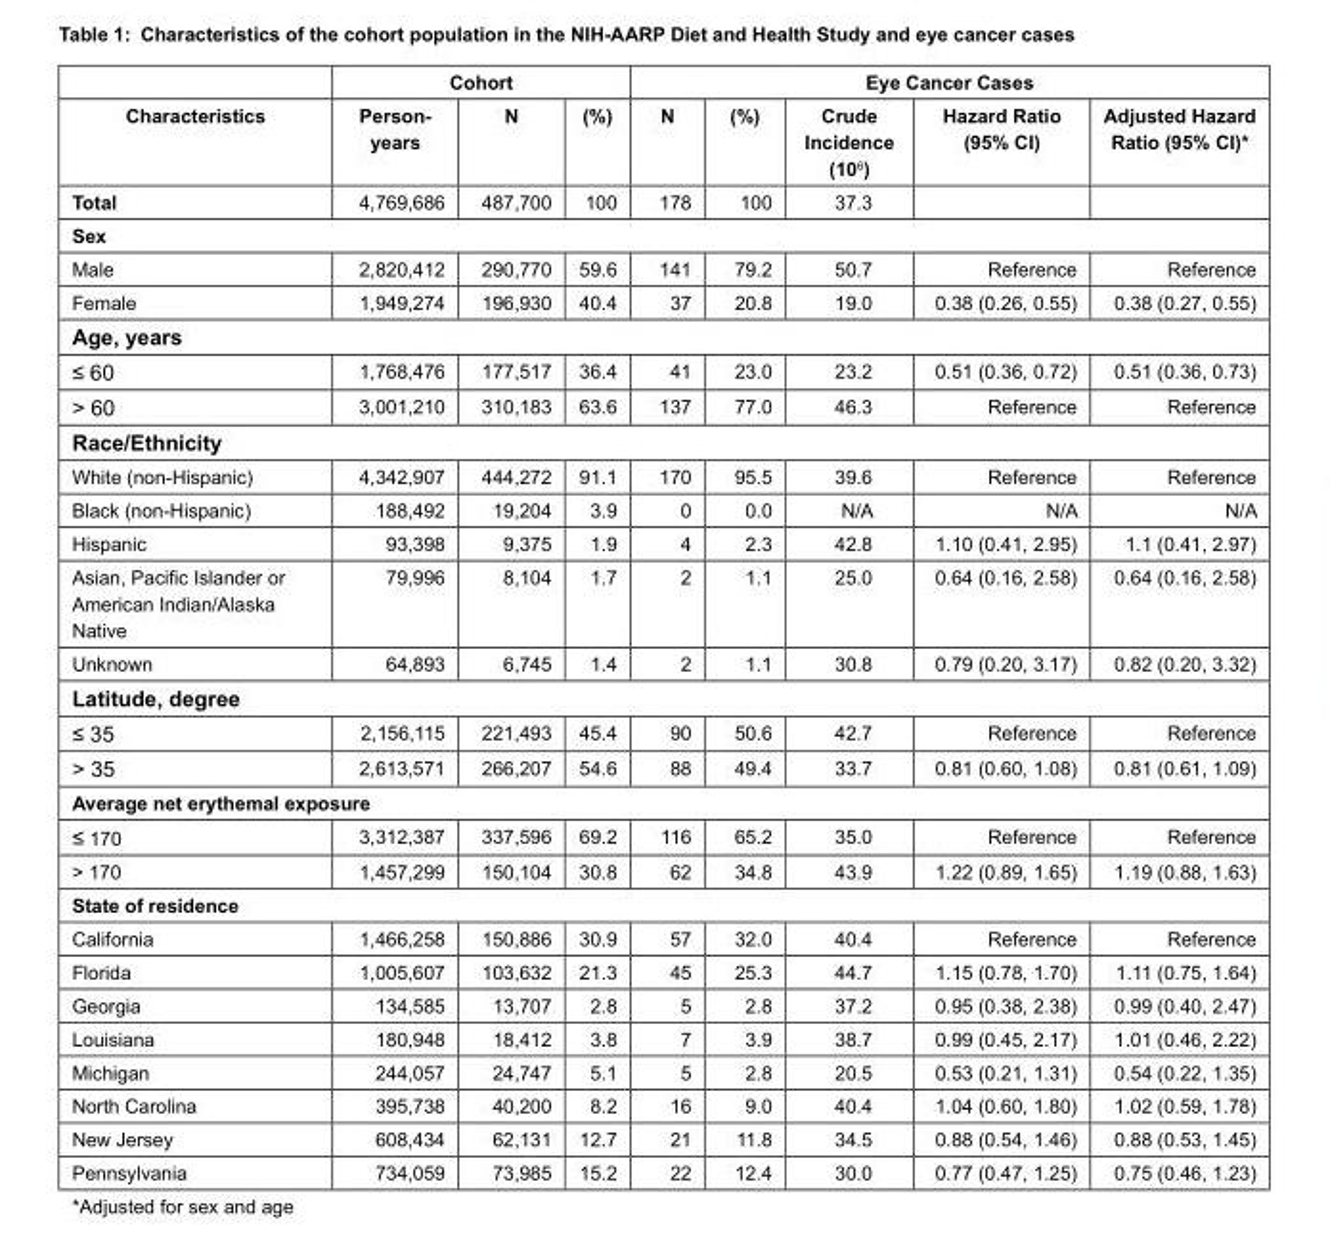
<table><thead><tr><td rowspan="2">Characteristics</td><td colspan="3">Cohort</td><td colspan="5">Eye Cancer Cases</td></tr><tr><td>Person- years</td><td>N</td><td>(%)</td><td>N</td><td>(%)</td><td>Crude Incidence (10<sup>6</sup>)</td><td>Hazard Ratio (95% CI)</td><td>Adjusted Hazard Ratio (95% CI)*</td></tr></thead><tbody><tr><td>Total</td><td>4,769,686</td><td>487,700</td><td>100</td><td>178</td><td>100</td><td>37.3</td><td></td><td></td></tr><tr><td colspan="9">Sex</td></tr><tr><td>Male</td><td>2,820,412</td><td>290,770</td><td>59.6</td><td>141</td><td>79.2</td><td>50.7</td><td>Reference</td><td>Reference</td></tr><tr><td>Female</td><td>1,949,274</td><td>196,930</td><td>40.4</td><td>37</td><td>20.8</td><td>19.0</td><td>0.38 (0.26, 0.55)</td><td>0.38 (0.27, 0.55)</td></tr><tr><td colspan="9">Age, years</td></tr><tr><td>≤ 60</td><td>1,768,476</td><td>177,517</td><td>36.4</td><td>41</td><td>23.0</td><td>23.2</td><td>0.51 (0.36, 0.72)</td><td>0.51 (0.36, 0.73)</td></tr><tr><td>&gt; 60</td><td>3,001,210</td><td>310,183</td><td>63.6</td><td>137</td><td>77.0</td><td>46.3</td><td>Reference</td><td>Reference</td></tr><tr><td colspan="9">Race/Ethnicity</td></tr><tr><td>White (non-Hispanic)</td><td>4,342,907</td><td>444,272</td><td>91.1</td><td>170</td><td>95.5</td><td>39.6</td><td>Reference</td><td>Reference</td></tr><tr><td>Black (non-Hispanic)</td><td>188,492</td><td>19,204</td><td>3.9</td><td>0</td><td>0.0</td><td>N/A</td><td>N/A</td><td>N/A</td></tr><tr><td>Hispanic</td><td>93,398</td><td>9,375</td><td>1.9</td><td>4</td><td>2.3</td><td>42.8</td><td>1.10 (0.41, 2.95)</td><td>1.1 (0.41, 2.97)</td></tr><tr><td>Asian, Pacific Islander or American Indian/Alaska Native</td><td>79,996</td><td>8,104</td><td>1.7</td><td>2</td><td>1.1</td><td>25.0</td><td>0.64 (0.16, 2.58)</td><td>0.64 (0.16, 2.58)</td></tr><tr><td>Unknown</td><td>64,893</td><td>6,745</td><td>1.4</td><td>2</td><td>1.1</td><td>30.8</td><td>0.79 (0.20, 3.17)</td><td>0.82 (0.20, 3.32)</td></tr><tr><td colspan="9">Latitude, degree</td></tr><tr><td>≤ 35</td><td>2,156,115</td><td>221,493</td><td>45.4</td><td>90</td><td>50.6</td><td>42.7</td><td>Reference</td><td>Reference</td></tr><tr><td>&gt; 35</td><td>2,613,571</td><td>266,207</td><td>54.6</td><td>88</td><td>49.4</td><td>33.7</td><td>0.81 (0.60, 1.08)</td><td>0.81 (0.61, 1.09)</td></tr><tr><td colspan="9">Average net erythemal exposure</td></tr><tr><td>≤ 170</td><td>3,312,387</td><td>337,596</td><td>69.2</td><td>116</td><td>65.2</td><td>35.0</td><td>Reference</td><td>Reference</td></tr><tr><td>&gt; 170</td><td>1,457,299</td><td>150,104</td><td>30.8</td><td>62</td><td>34.8</td><td>43.9</td><td>1.22 (0.89, 1.65)</td><td>1.19 (0.88, 1.63)</td></tr><tr><td colspan="9">State of residence</td></tr><tr><td>California</td><td>1,466,258</td><td>150,886</td><td>30.9</td><td>57</td><td>32.0</td><td>40.4</td><td>Reference</td><td>Reference</td></tr><tr><td>Florida</td><td>1,005,607</td><td>103,632</td><td>21.3</td><td>45</td><td>25.3</td><td>44.7</td><td>1.15 (0.78, 1.70)</td><td>1.11 (0.75, 1.64)</td></tr><tr><td>Georgia</td><td>134,585</td><td>13,707</td><td>2.8</td><td>5</td><td>2.8</td><td>37.2</td><td>0.95 (0.38, 2.38)</td><td>0.99 (0.40, 2.47)</td></tr><tr><td>Louisiana</td><td>180,948</td><td>18,412</td><td>3.8</td><td>7</td><td>3.9</td><td>38.7</td><td>0.99 (0.45, 2.17)</td><td>1.01 (0.46, 2.22)</td></tr><tr><td>Michigan</td><td>244,057</td><td>24,747</td><td>5.1</td><td>5</td><td>2.8</td><td>20.5</td><td>0.53 (0.21, 1.31)</td><td>0.54 (0.22, 1.35)</td></tr><tr><td>North Carolina</td><td>395,738</td><td>40,200</td><td>8.2</td><td>16</td><td>9.0</td><td>40.4</td><td>1.04 (0.60, 1.80)</td><td>1.02 (0.59, 1.78)</td></tr><tr><td>New Jersey</td><td>608,434</td><td>62,131</td><td>12.7</td><td>21</td><td>11.8</td><td>34.5</td><td>0.88 (0.54, 1.46)</td><td>0.88 (0.53, 1.45)</td></tr><tr><td>Pennsylvania</td><td>734,059</td><td>73,985</td><td>15.2</td><td>22</td><td>12.4</td><td>30.0</td><td>0.77 (0.47, 1.25)</td><td>0.75 (0.46, 1.23)</td></tr></tbody></table>